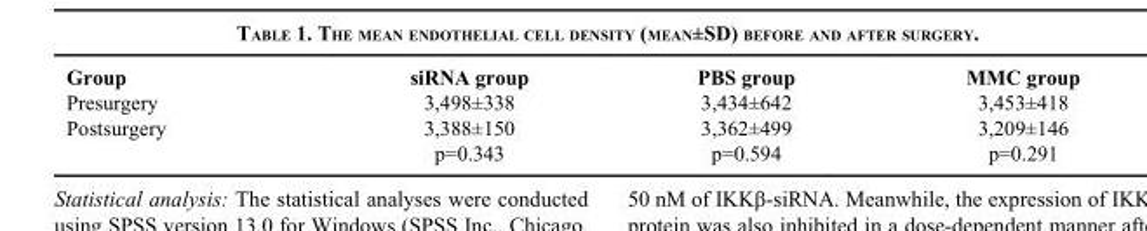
<table><thead><tr><td>Group</td><td>siRNA group</td><td>PBS group</td><td>MMC group</td></tr></thead><tbody><tr><td>Presurgery</td><td>3,498±338</td><td>3,434±642</td><td>3,453±418</td></tr><tr><td rowspan="2">Postsurgery</td><td>3,388±150</td><td>3,362±499</td><td>3,209±146</td></tr><tr><td>p=0.343</td><td>p=0.594</td><td>p=0.291</td></tr></tbody></table>